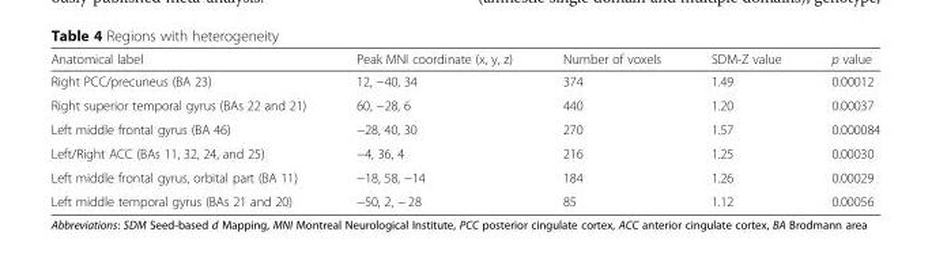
<table><thead><tr><td>Anatomical label</td><td>Peak MNI coordinate (x, y, z)</td><td>Number of voxels</td><td>SDM-Z value</td><td>p value</td></tr></thead><tbody><tr><td>Right PCC/precuneus (BA 23)</td><td>12, −40, 34</td><td>374</td><td>1.49</td><td>0.00012</td></tr><tr><td>Right superior temporal gyrus (BAs 22 and 21)</td><td>60, −28, 6</td><td>440</td><td>1.20</td><td>0.00037</td></tr><tr><td>Left middle frontal gyrus (BA 46)</td><td>−28, 40, 30</td><td>270</td><td>1.57</td><td>0.000084</td></tr><tr><td>Left/Right ACC (BAs 11, 32, 24, and 25)</td><td>−4, 36, 4</td><td>216</td><td>1.25</td><td>0.00030</td></tr><tr><td>Left middle frontal gyrus, orbital part (BA 11)</td><td>−18, 58, −14</td><td>184</td><td>1.26</td><td>0.00029</td></tr><tr><td>Left middle temporal gyrus (BAs 21 and 20)</td><td>−50, 2, − 28</td><td>85</td><td>1.12</td><td>0.00056</td></tr></tbody></table>